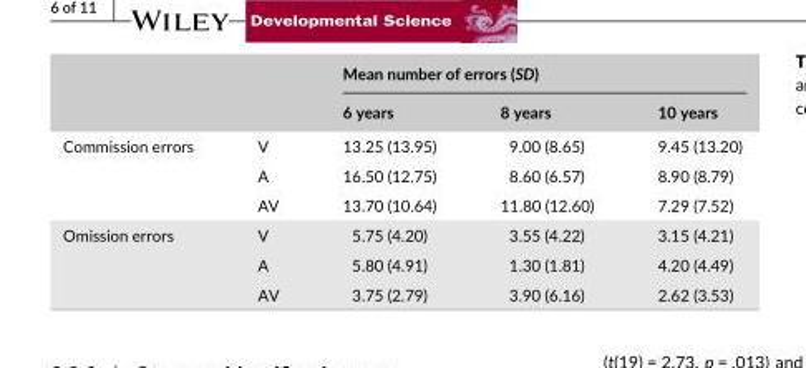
<table><thead><tr><td rowspan="2"></td><td rowspan="2"></td><td colspan="3">Mean number of errors (SD)</td></tr><tr><td>6 years</td><td>8 years</td><td>10 years</td></tr></thead><tbody><tr><td rowspan="3">Commission errors</td><td>V</td><td>13.25 (13.95)</td><td>9.00 (8.65)</td><td>9.45 (13.20)</td></tr><tr><td>A</td><td>16.50 (12.75)</td><td>8.60 (6.57)</td><td>8.90 (8.79)</td></tr><tr><td>AV</td><td>13.70 (10.64)</td><td>11.80 (12.60)</td><td>7.29 (7.52)</td></tr><tr><td rowspan="3">Omission errors</td><td>V</td><td>5.75 (4.20)</td><td>3.55 (4.22)</td><td>3.15 (4.21)</td></tr><tr><td>A</td><td>5.80 (4.91)</td><td>1.30 (1.81)</td><td>4.20 (4.49)</td></tr><tr><td>AV</td><td>3.75 (2.79)</td><td>3.90 (6.16)</td><td>2.62 (3.53)</td></tr></tbody></table>